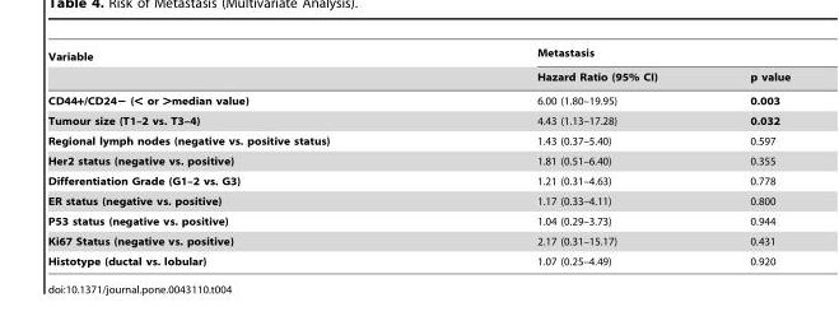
<table><thead><tr><td rowspan="2">Variable</td><td colspan="2">Metastasis</td></tr><tr><td>Hazard Ratio (95% CI)</td><td>p value</td></tr></thead><tbody><tr><td>CD44+/CD24− (&lt; or &gt;median value)</td><td>6.00 (1.80–19.95)</td><td>0.003</td></tr><tr><td>Tumour size (T1–2 vs. T3–4)</td><td>4.43 (1.13–17.28)</td><td>0.032</td></tr><tr><td>Regional lymph nodes (negative vs. positive status)</td><td>1.43 (0.37–5.40)</td><td>0.597</td></tr><tr><td>Her2 status (negative vs. positive)</td><td>1.81 (0.51–6.40)</td><td>0.355</td></tr><tr><td>Differentiation Grade (G1–2 vs. G3)</td><td>1.21 (0.31–4.63)</td><td>0.778</td></tr><tr><td>ER status (negative vs. positive)</td><td>1.17 (0.33–4.11)</td><td>0.800</td></tr><tr><td>P53 status (negative vs. positive)</td><td>1.04 (0.29–3.73)</td><td>0.944</td></tr><tr><td>Ki67 Status (negative vs. positive)</td><td>2.17 (0.31–15.17)</td><td>0.431</td></tr><tr><td>Histotype (ductal vs. lobular)</td><td>1.07 (0.25–4.49)</td><td>0.920</td></tr></tbody></table>